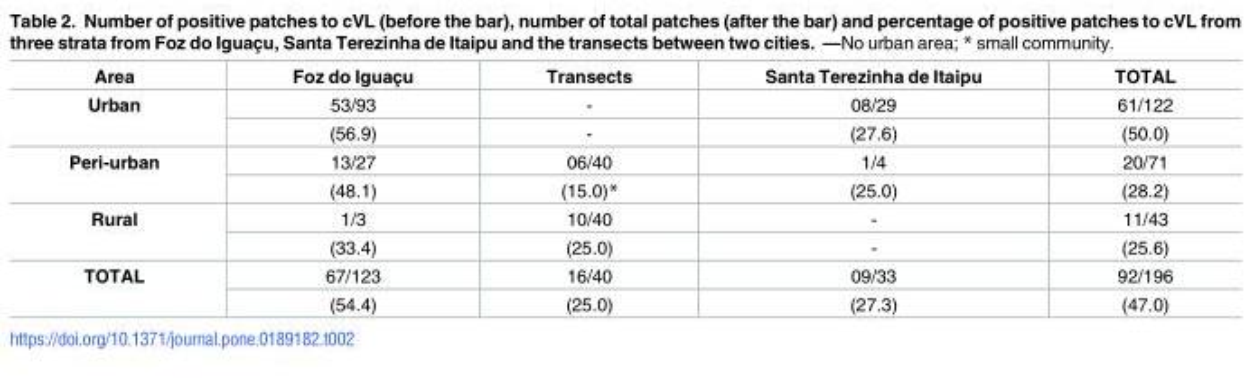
<table><thead><tr><td>Area</td><td>Foz do Iguac¸u</td><td>Transects</td><td>Santa Terezinha de Itaipu</td><td>TOTAL</td></tr></thead><tbody><tr><td rowspan="2">Urban</td><td>53/93</td><td>-</td><td>08/29</td><td>61/122</td></tr><tr><td>(56.9)</td><td>-</td><td>(27.6)</td><td>(50.0)</td></tr><tr><td rowspan="2">Peri-urban</td><td>13/27</td><td>06/40</td><td>1/4</td><td>20/71</td></tr><tr><td>(48.1)</td><td>(15.0)*</td><td>(25.0)</td><td>(28.2)</td></tr><tr><td rowspan="2">Rural</td><td>1/3</td><td>10/40</td><td>-</td><td>11/43</td></tr><tr><td>(33.4)</td><td>(25.0)</td><td>-</td><td>(25.6)</td></tr><tr><td rowspan="2">TOTAL</td><td>67/123</td><td>16/40</td><td>09/33</td><td>92/196</td></tr><tr><td>(54.4)</td><td>(25.0)</td><td>(27.3)</td><td>(47.0)</td></tr></tbody></table>